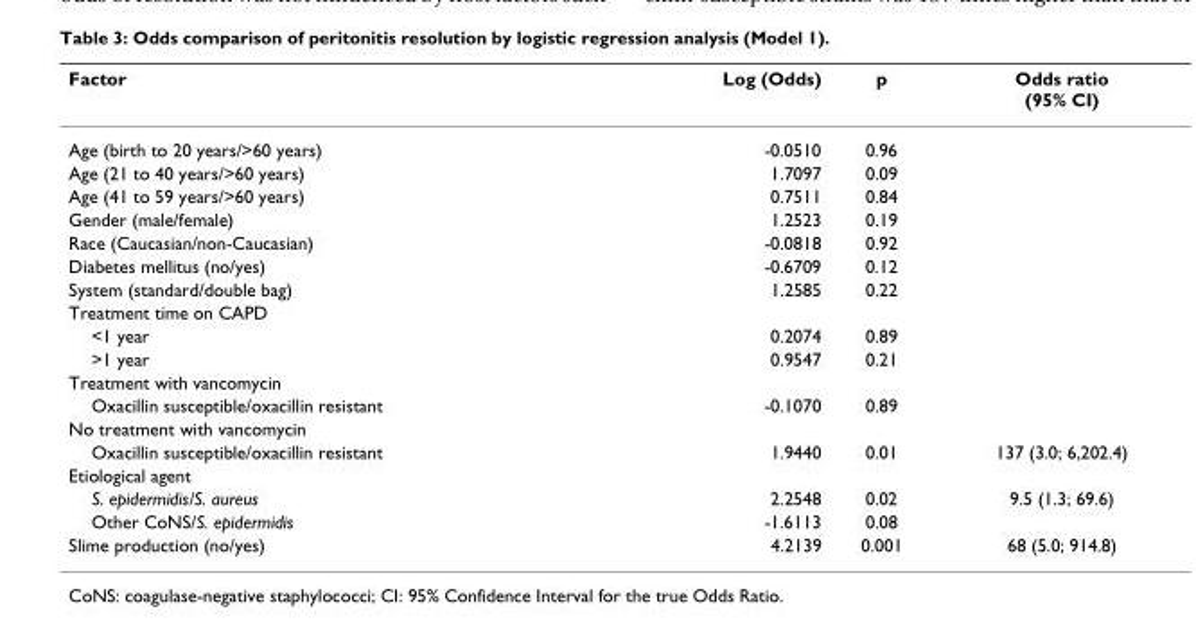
<table><thead><tr><td>Factor</td><td>Log (Odds)</td><td>p</td><td>Odds ratio (95% CI)</td></tr></thead><tbody><tr><td>Age (birth to 20 years/&gt;60 years)</td><td>-0.0510</td><td>0.96</td><td></td></tr><tr><td>Age (21 to 40 years/&gt;60 years)</td><td>1.7097</td><td>0.09</td><td></td></tr><tr><td>Age (41 to 59 years/&gt;60 years)</td><td>0.7511</td><td>0.84</td><td></td></tr><tr><td>Gender (male/female)</td><td>1.2523</td><td>0.19</td><td></td></tr><tr><td>Race (Caucasian/non-Caucasian)</td><td>-0.0818</td><td>0.92</td><td></td></tr><tr><td>Diabetes mellitus (no/yes)</td><td>-0.6709</td><td>0.12</td><td></td></tr><tr><td>System (standard/double bag)</td><td>1.2585</td><td>0.22</td><td></td></tr><tr><td colspan="4">Treatment time on CAPD</td></tr><tr><td>&lt;1 year</td><td>0.2074</td><td>0.89</td><td></td></tr><tr><td>&gt;1 year</td><td>0.9547</td><td>0.21</td><td></td></tr><tr><td colspan="4">Treatment with vancomycin</td></tr><tr><td>Oxacillin susceptible/oxacillin resistant</td><td>-0.1070</td><td>0.89</td><td></td></tr><tr><td colspan="4">No treatment with vancomycin</td></tr><tr><td>Oxacillin susceptible/oxacillin resistant</td><td>1.9440</td><td>0.01</td><td>137 (3.0; 6,202.4)</td></tr><tr><td colspan="4">Etiological agent</td></tr><tr><td>S. epidermidis/S. aureus</td><td>2.2548</td><td>0.02</td><td>9.5 (1.3; 69.6)</td></tr><tr><td>Other CoNS/S. epidermidis</td><td>-1.6113</td><td>0.08</td><td></td></tr><tr><td>Slime production (no/yes)</td><td>4.2139</td><td>0.001</td><td>68 (5.0; 914.8)</td></tr></tbody></table>